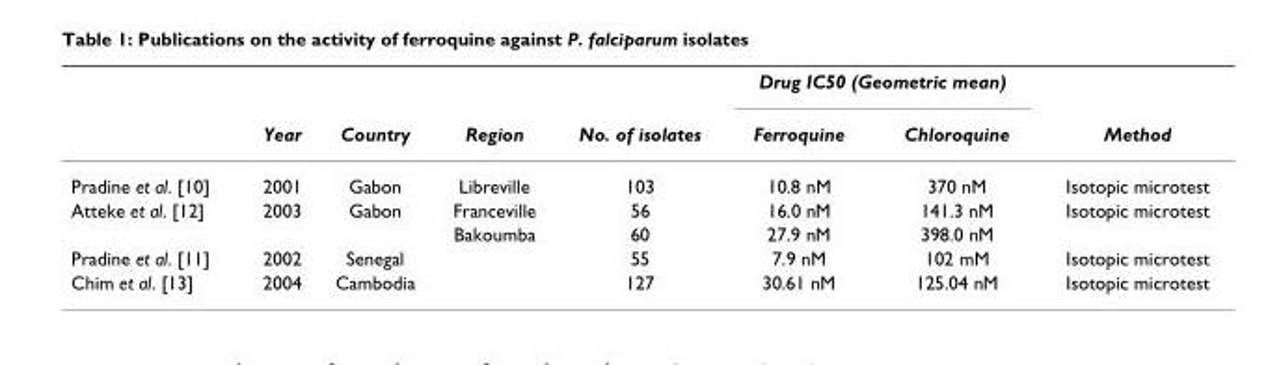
<table><thead><tr><td rowspan="2"></td><td rowspan="2">Year</td><td rowspan="2">Country</td><td rowspan="2">Region</td><td rowspan="2">No. of isolates</td><td colspan="2">Drug IC50 (Geometric mean)</td><td rowspan="2">Method</td></tr><tr><td>Ferroquine</td><td>Chloroquine</td></tr></thead><tbody><tr><td>Pradine et al. [10]</td><td>2001</td><td>Gabon</td><td>Libreville</td><td>103</td><td>10.8 nM</td><td>370 nM</td><td>Isotopic microtest</td></tr><tr><td rowspan="2">Atteke et al. [12]</td><td>2003</td><td>Gabon</td><td>Franceville</td><td>56</td><td>16.0 nM</td><td>141.3 nM</td><td>Isotopic microtest</td></tr><tr><td></td><td></td><td>Bakoumba</td><td>60</td><td>27.9 nM</td><td>398.0 nM</td><td></td></tr><tr><td>Pradine et al. [11]</td><td>2002</td><td>Senegal</td><td></td><td>55</td><td>7.9 nM</td><td>102 mM</td><td>Isotopic microtest</td></tr><tr><td>Chim et al. [13]</td><td>2004</td><td>Cambodia</td><td></td><td>127</td><td>30.61 nM</td><td>125.04 nM</td><td>Isotopic microtest</td></tr></tbody></table>